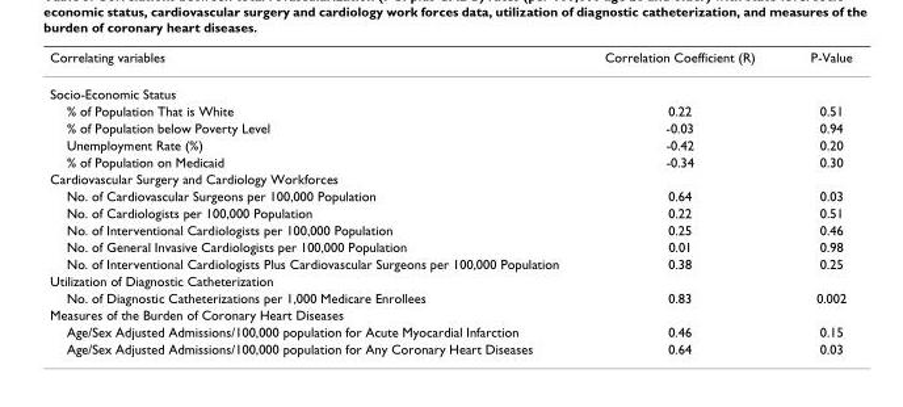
<table><thead><tr><td>Correlating variables</td><td>Correlation Coefficient (R)</td><td>P-Value</td></tr></thead><tbody><tr><td colspan="3">Socio-Economic Status</td></tr><tr><td>% of Population That is White</td><td>0.22</td><td>0.51</td></tr><tr><td>% of Population below Poverty Level</td><td>-0.03</td><td>0.94</td></tr><tr><td>Unemployment Rate (%)</td><td>-0.42</td><td>0.20</td></tr><tr><td>% of Population on Medicaid</td><td>-0.34</td><td>0.30</td></tr><tr><td colspan="3">Cardiovascular Surgery and Cardiology Workforces</td></tr><tr><td>No. of Cardiovascular Surgeons per 100,000 Population</td><td>0.64</td><td>0.03</td></tr><tr><td>No. of Cardiologists per 100,000 Population</td><td>0.22</td><td>0.51</td></tr><tr><td>No. of Interventional Cardiologists per 100,000 Population</td><td>0.25</td><td>0.46</td></tr><tr><td>No. of General Invasive Cardiologists per 100,000 Population</td><td>0.01</td><td>0.98</td></tr><tr><td>No. of Interventional Cardiologists Plus Cardiovascular Surgeons per 100,000 Population</td><td>0.38</td><td>0.25</td></tr><tr><td colspan="3">Utilization of Diagnostic Catheterization</td></tr><tr><td>No. of Diagnostic Catheterizations per 1,000 Medicare Enrollees</td><td>0.83</td><td>0.002</td></tr><tr><td colspan="3">Measures of the Burden of Coronary Heart Diseases</td></tr><tr><td>Age/Sex Adjusted Admissions/100,000 population for Acute Myocardial Infarction</td><td>0.46</td><td>0.15</td></tr><tr><td>Age/Sex Adjusted Admissions/100,000 population for Any Coronary Heart Diseases</td><td>0.64</td><td>0.03</td></tr></tbody></table>